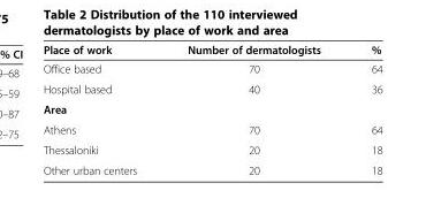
<table><thead><tr><td>Place of work</td><td>Number of dermatologists</td><td>%</td></tr></thead><tbody><tr><td>Office based</td><td>70</td><td>64</td></tr><tr><td>Hospital based</td><td>40</td><td>36</td></tr><tr><td colspan="3">Area</td></tr><tr><td>Athens</td><td>70</td><td>64</td></tr><tr><td>Thessaloniki</td><td>20</td><td>18</td></tr><tr><td>Other urban centers</td><td>20</td><td>18</td></tr></tbody></table>